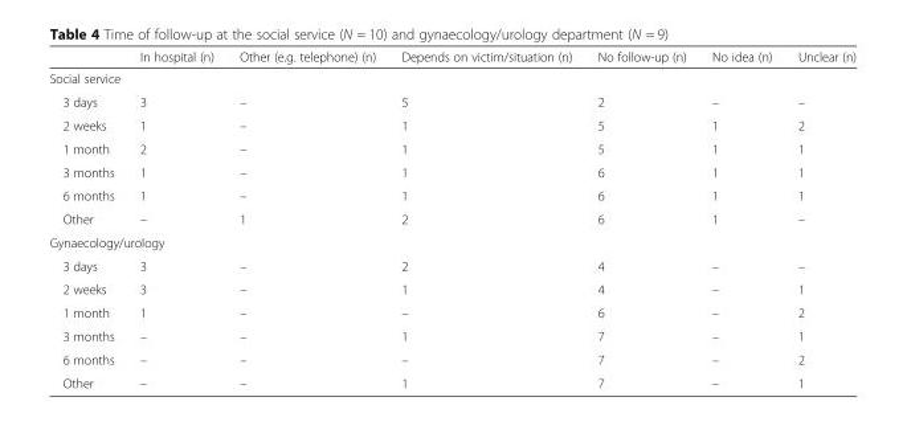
<table><thead><tr><td></td><td>In hospital (n)</td><td>Other (e.g. telephone) (n)</td><td>Depends on victim/situation (n)</td><td>No follow-up (n)</td><td>No idea (n)</td><td>Unclear (n)</td></tr></thead><tbody><tr><td colspan="7">Social service</td></tr><tr><td>3 days</td><td>3</td><td>–</td><td>5</td><td>2</td><td>–</td><td>–</td></tr><tr><td>2 weeks</td><td>1</td><td>–</td><td>1</td><td>5</td><td>1</td><td>2</td></tr><tr><td>1 month</td><td>2</td><td>–</td><td>1</td><td>5</td><td>1</td><td>1</td></tr><tr><td>3 months</td><td>1</td><td>–</td><td>1</td><td>6</td><td>1</td><td>1</td></tr><tr><td>6 months</td><td>1</td><td>–</td><td>1</td><td>6</td><td>1</td><td>1</td></tr><tr><td>Other</td><td>–</td><td>1</td><td>2</td><td>6</td><td>1</td><td>–</td></tr><tr><td colspan="7">Gynaecology/urology</td></tr><tr><td>3 days</td><td>3</td><td>–</td><td>2</td><td>4</td><td>–</td><td>–</td></tr><tr><td>2 weeks</td><td>3</td><td>–</td><td>1</td><td>4</td><td>–</td><td>1</td></tr><tr><td>1 month</td><td>1</td><td>–</td><td>–</td><td>6</td><td>–</td><td>2</td></tr><tr><td>3 months</td><td>–</td><td>–</td><td>1</td><td>7</td><td>–</td><td>1</td></tr><tr><td>6 months</td><td>–</td><td>–</td><td>–</td><td>7</td><td>–</td><td>2</td></tr><tr><td>Other</td><td>–</td><td>–</td><td>1</td><td>7</td><td>–</td><td>1</td></tr></tbody></table>